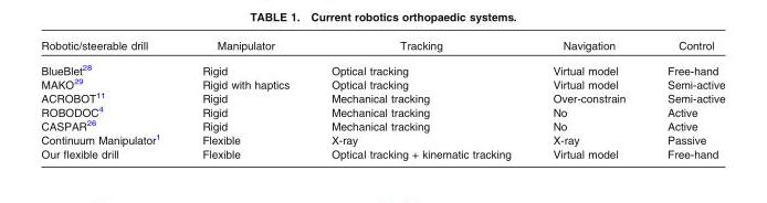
<table><thead><tr><td>Robotic/steerable drill</td><td>Manipulator</td><td>Tracking</td><td>Navigation</td><td>Control</td></tr></thead><tbody><tr><td>BlueBlet<sup>28</sup></td><td>Rigid</td><td>Optical tracking</td><td>Virtual model</td><td>Free-hand</td></tr><tr><td>MAKO<sup>29</sup></td><td>Rigid with haptics</td><td>Optical tracking</td><td>Virtual model</td><td>Semi-active</td></tr><tr><td>ACROBOT<sup>11</sup></td><td>Rigid</td><td>Mechanical tracking</td><td>Over-constrain</td><td>Semi-active</td></tr><tr><td>ROBODOC<sup>4</sup></td><td>Rigid</td><td>Mechanical tracking</td><td>No</td><td>Active</td></tr><tr><td>CASPAR<sup>26</sup></td><td>Rigid</td><td>Mechanical tracking</td><td>No</td><td>Active</td></tr><tr><td>Continuum Manipulator<sup>1</sup></td><td>Flexible</td><td>X-ray</td><td>X-ray</td><td>Passive</td></tr><tr><td>Our flexible drill</td><td>Flexible</td><td>Optical tracking + kinematic tracking</td><td>Virtual model</td><td>Free-hand</td></tr></tbody></table>